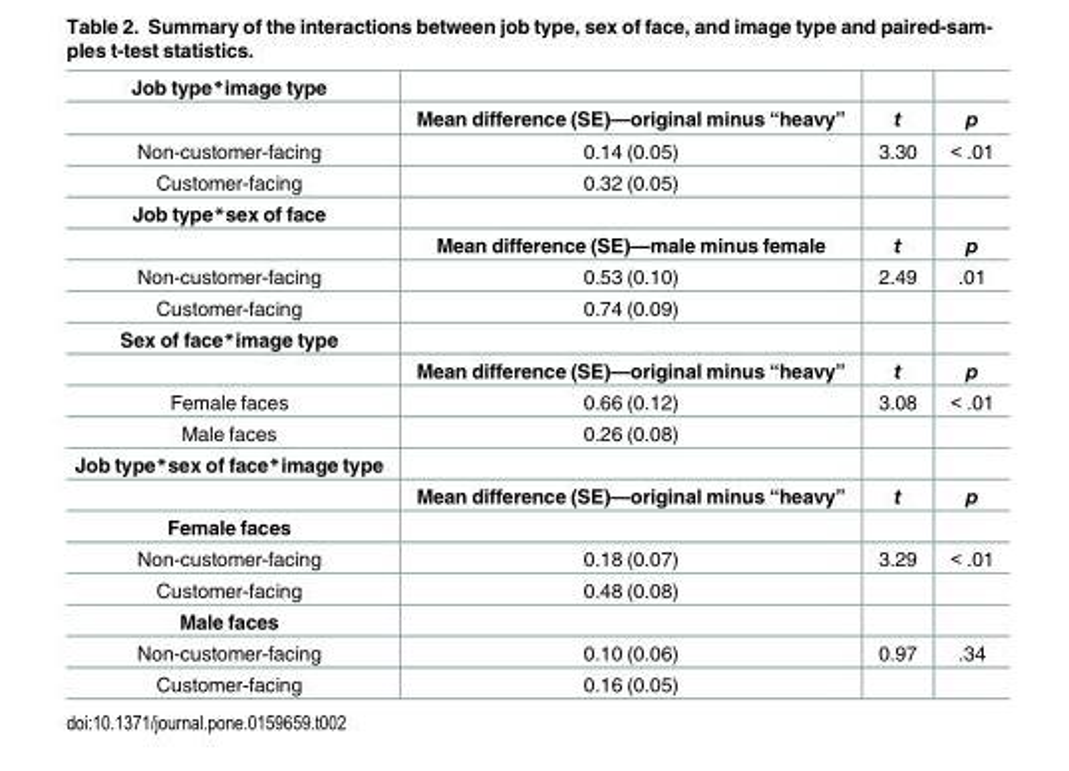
<table><thead><tr><td rowspan="2">Job type*image type</td><td rowspan="2">Mean difference (SE)—original minus “heavy”</td><td rowspan="2">t</td><td rowspan="2">p</td></tr><tr></tr></thead><tbody><tr><td>Non-customer-facing</td><td>0.14 (0.05)</td><td>3.30</td><td>&lt; .01</td></tr><tr><td>Customer-facing</td><td>0.32 (0.05)</td><td></td><td></td></tr><tr><td colspan="4">Job type*sex of face</td></tr><tr><td></td><td>Mean difference (SE)—male minus female</td><td>t</td><td>p</td></tr><tr><td>Non-customer-facing</td><td>0.53 (0.10)</td><td>2.49</td><td>.01</td></tr><tr><td>Customer-facing</td><td>0.74 (0.09)</td><td></td><td></td></tr><tr><td colspan="4">Sex of face*image type</td></tr><tr><td></td><td>Mean difference (SE)—original minus “heavy”</td><td>t</td><td>p</td></tr><tr><td>Female faces</td><td>0.66 (0.12)</td><td>3.08</td><td>&lt; .01</td></tr><tr><td>Male faces</td><td>0.26 (0.08)</td><td></td><td></td></tr><tr><td colspan="4">Job type*sex of face*image type</td></tr><tr><td></td><td>Mean difference (SE)—original minus “heavy”</td><td>t</td><td>p</td></tr><tr><td colspan="4">Female faces</td></tr><tr><td>Non-customer-facing</td><td>0.18 (0.07)</td><td>3.29</td><td>&lt; .01</td></tr><tr><td>Customer-facing</td><td>0.48 (0.08)</td><td></td><td></td></tr><tr><td colspan="4">Male faces</td></tr><tr><td>Non-customer-facing</td><td>0.10 (0.06)</td><td>0.97</td><td>.34</td></tr><tr><td>Customer-facing</td><td>0.16 (0.05)</td><td></td><td></td></tr></tbody></table>